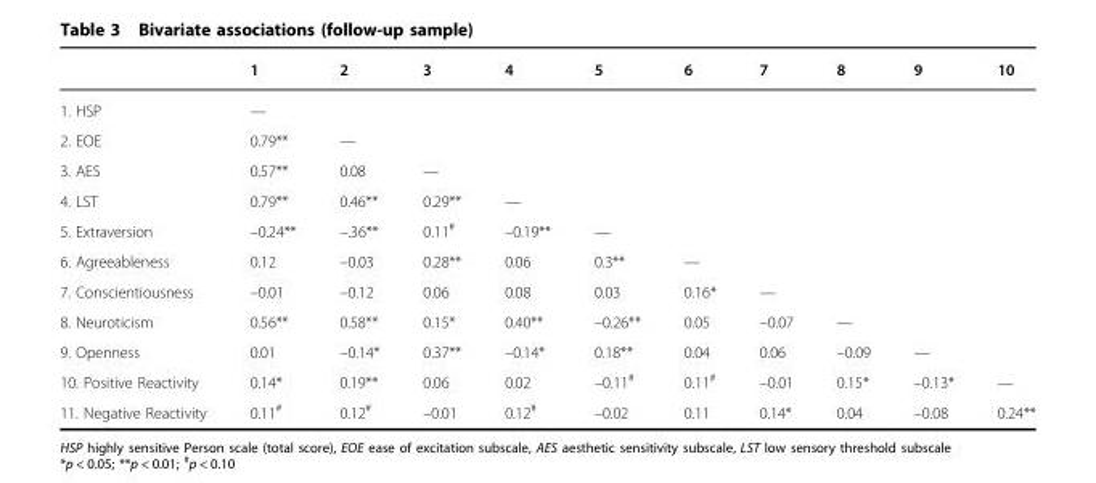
<table><thead><tr><td></td><td>1</td><td>2</td><td>3</td><td>4</td><td>5</td><td>6</td><td>7</td><td>8</td><td>9</td><td>10</td></tr></thead><tbody><tr><td>1. HSP</td><td>—</td><td></td><td></td><td></td><td></td><td></td><td></td><td></td><td></td><td></td></tr><tr><td>2. EOE</td><td>0.79**</td><td>—</td><td></td><td></td><td></td><td></td><td></td><td></td><td></td><td></td></tr><tr><td>3. AES</td><td>0.57**</td><td>0.08</td><td>—</td><td></td><td></td><td></td><td></td><td></td><td></td><td></td></tr><tr><td>4. LST</td><td>0.79**</td><td>0.46**</td><td>0.29**</td><td>—</td><td></td><td></td><td></td><td></td><td></td><td></td></tr><tr><td>5. Extraversion</td><td>–0.24**</td><td>–.36**</td><td>0.11<sup>#</sup></td><td>–0.19**</td><td>—</td><td></td><td></td><td></td><td></td><td></td></tr><tr><td>6. Agreeableness</td><td>0.12</td><td>–0.03</td><td>0.28**</td><td>0.06</td><td>0.3**</td><td>—</td><td></td><td></td><td></td><td></td></tr><tr><td>7. Conscientiousness</td><td>–0.01</td><td>–0.12</td><td>0.06</td><td>0.08</td><td>0.03</td><td>0.16*</td><td>—</td><td></td><td></td><td></td></tr><tr><td>8. Neuroticism</td><td>0.56**</td><td>0.58**</td><td>0.15*</td><td>0.40**</td><td>–0.26**</td><td>0.05</td><td>–0.07</td><td>—</td><td></td><td></td></tr><tr><td>9. Openness</td><td>0.01</td><td>–0.14*</td><td>0.37**</td><td>–0.14*</td><td>0.18**</td><td>0.04</td><td>0.06</td><td>–0.09</td><td>—</td><td></td></tr><tr><td>10. Positive Reactivity</td><td>0.14*</td><td>0.19**</td><td>0.06</td><td>0.02</td><td>–0.11<sup>#</sup></td><td>0.11<sup>#</sup></td><td>–0.01</td><td>0.15*</td><td>–0.13*</td><td>—</td></tr><tr><td>11. Negative Reactivity</td><td>0.11<sup>#</sup></td><td>0.12<sup>#</sup></td><td>–0.01</td><td>0.12<sup>#</sup></td><td>–0.02</td><td>0.11</td><td>0.14*</td><td>0.04</td><td>–0.08</td><td>0.24**</td></tr></tbody></table>